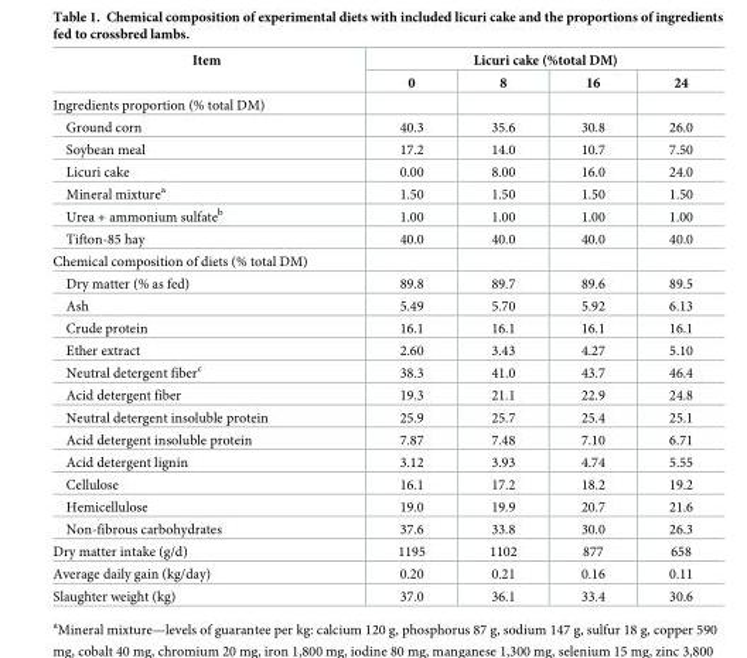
<table><thead><tr><td rowspan="2">Item</td><td colspan="4">Licuri cake (%total DM)</td></tr><tr><td>0</td><td>8</td><td>16</td><td>24</td></tr></thead><tbody><tr><td colspan="5">Ingredients proportion (% total DM)</td></tr><tr><td>Ground corn</td><td>40.3</td><td>35.6</td><td>30.8</td><td>26.0</td></tr><tr><td>Soybean meal</td><td>17.2</td><td>14.0</td><td>10.7</td><td>7.50</td></tr><tr><td>Licuri cake</td><td>0.00</td><td>8.00</td><td>16.0</td><td>24.0</td></tr><tr><td>Mineral mixture<sup>a</sup></td><td>1.50</td><td>1.50</td><td>1.50</td><td>1.50</td></tr><tr><td>Urea + ammonium sulfate<sup>b</sup></td><td>1.00</td><td>1.00</td><td>1.00</td><td>1.00</td></tr><tr><td>Tifton-85 hay</td><td>40.0</td><td>40.0</td><td>40.0</td><td>40.0</td></tr><tr><td colspan="5">Chemical composition of diets (% total DM)</td></tr><tr><td>Dry matter (% as fed)</td><td>89.8</td><td>89.7</td><td>89.6</td><td>89.5</td></tr><tr><td>Ash</td><td>5.49</td><td>5.70</td><td>5.92</td><td>6.13</td></tr><tr><td>Crude protein</td><td>16.1</td><td>16.1</td><td>16.1</td><td>16.1</td></tr><tr><td>Ether extract</td><td>2.60</td><td>3.43</td><td>4.27</td><td>5.10</td></tr><tr><td>Neutral detergent fiber<sup>c</sup></td><td>38.3</td><td>41.0</td><td>43.7</td><td>46.4</td></tr><tr><td>Acid detergent fiber</td><td>19.3</td><td>21.1</td><td>22.9</td><td>24.8</td></tr><tr><td>Neutral detergent insoluble protein</td><td>25.9</td><td>25.7</td><td>25.4</td><td>25.1</td></tr><tr><td>Acid detergent insoluble protein</td><td>7.87</td><td>7.48</td><td>7.10</td><td>6.71</td></tr><tr><td>Acid detergent lignin</td><td>3.12</td><td>3.93</td><td>4.74</td><td>5.55</td></tr><tr><td>Cellulose</td><td>16.1</td><td>17.2</td><td>18.2</td><td>19.2</td></tr><tr><td>Hemicellulose</td><td>19.0</td><td>19.9</td><td>20.7</td><td>21.6</td></tr><tr><td>Non-fibrous carbohydrates</td><td>37.6</td><td>33.8</td><td>30.0</td><td>26.3</td></tr><tr><td>Dry matter intake (g/d)</td><td>1195</td><td>1102</td><td>877</td><td>658</td></tr><tr><td>Average daily gain (kg/day)</td><td>0.20</td><td>0.21</td><td>0.16</td><td>0.11</td></tr><tr><td>Slaughter weight (kg)</td><td>37.0</td><td>36.1</td><td>33.4</td><td>30.6</td></tr></tbody></table>